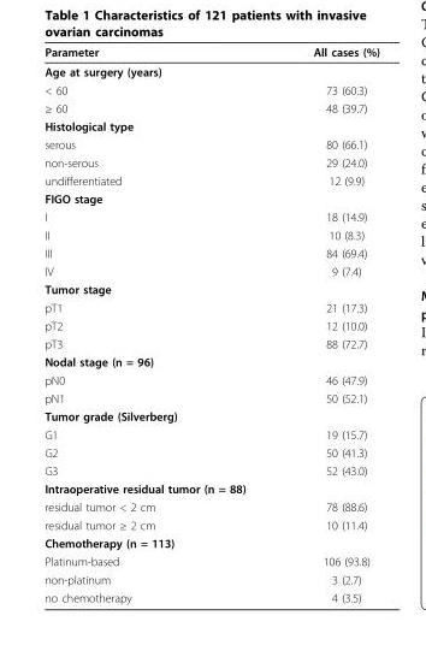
<table><thead><tr><td>Parameter</td><td>All cases (%)</td></tr></thead><tbody><tr><td colspan="2">Age at surgery (years)</td></tr><tr><td>&lt; 60</td><td>73 (60.3)</td></tr><tr><td>≥ 60</td><td>48 (39.7)</td></tr><tr><td colspan="2">Histological type</td></tr><tr><td>serous</td><td>80 (66.1)</td></tr><tr><td>non-serous</td><td>29 (24.0)</td></tr><tr><td>undifferentiated</td><td>12 (9.9)</td></tr><tr><td colspan="2">FIGO stage</td></tr><tr><td>I</td><td>18 (14.9)</td></tr><tr><td>II</td><td>10 (8.3)</td></tr><tr><td>III</td><td>84 (69.4)</td></tr><tr><td>IV</td><td>9 (7.4)</td></tr><tr><td colspan="2">Tumor stage</td></tr><tr><td>pT1</td><td>21 (17.3)</td></tr><tr><td>pT2</td><td>12 (10.0)</td></tr><tr><td>pT3</td><td>88 (72.7)</td></tr><tr><td colspan="2">Nodal stage (n = 96)</td></tr><tr><td>pN0</td><td>46 (47.9)</td></tr><tr><td>pN1</td><td>50 (52.1)</td></tr><tr><td colspan="2">Tumor grade (Silverberg)</td></tr><tr><td>G1</td><td>19 (15.7)</td></tr><tr><td>G2</td><td>50 (41.3)</td></tr><tr><td>G3</td><td>52 (43.0)</td></tr><tr><td colspan="2">Intraoperative residual tumor (n = 88)</td></tr><tr><td>residual tumor &lt; 2 cm</td><td>78 (88.6)</td></tr><tr><td>residual tumor ≥ 2 cm</td><td>10 (11.4)</td></tr><tr><td colspan="2">Chemotherapy (n = 113)</td></tr><tr><td>Platinum-based</td><td>106 (93.8)</td></tr><tr><td>non-platinum</td><td>3 (2.7)</td></tr><tr><td>no chemotherapy</td><td>4 (3.5)</td></tr></tbody></table>